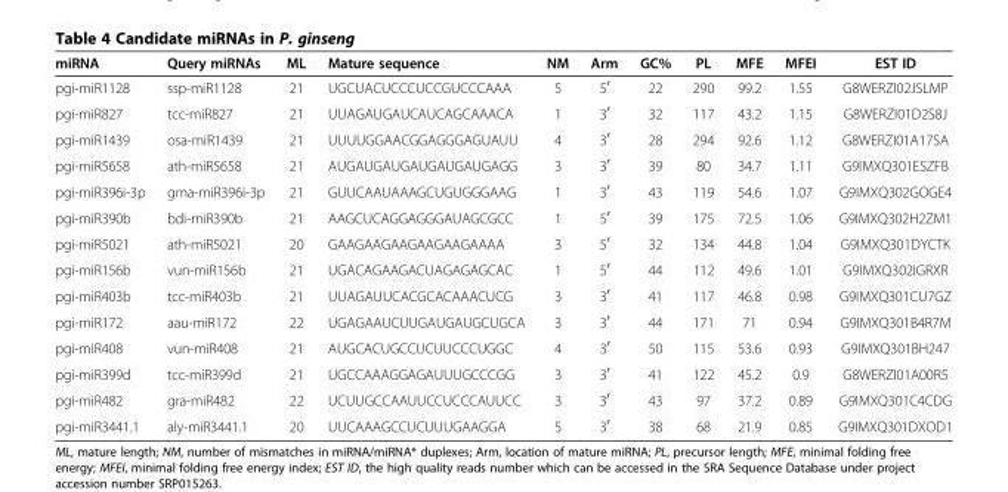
<table><thead><tr><td>miRNA</td><td>Query miRNAs</td><td>ML</td><td>Mature sequence</td><td>NM</td><td>Arm</td><td>GC%</td><td>PL</td><td>MFE</td><td>MFEI</td><td>EST ID</td></tr></thead><tbody><tr><td>pgi-miR1128</td><td>ssp-miR1128</td><td>21</td><td>UGCUACUCCCUCCGUCCCAAA</td><td>5</td><td>5<sup>′</sup></td><td>22</td><td>290</td><td>99.2</td><td>1.55</td><td>G8WERZI02JSLMP</td></tr><tr><td>pgi-miR827</td><td>tcc-miR827</td><td>21</td><td>UUAGAUGAUCAUCAGCAAACA</td><td>1</td><td>3<sup>′</sup></td><td>32</td><td>117</td><td>43.2</td><td>1.15</td><td>G8WERZI01D2S8J</td></tr><tr><td>pgi-miR1439</td><td>osa-miR1439</td><td>21</td><td>UUUUGGAACGGAGGGAGUAUU</td><td>4</td><td>3<sup>′</sup></td><td>28</td><td>294</td><td>92.6</td><td>1.12</td><td>G8WERZI01A17SA</td></tr><tr><td>pgi-miR5658</td><td>ath-miR5658</td><td>21</td><td>AUGAUGAUGAUGAUGAUGAGG</td><td>3</td><td>3<sup>′</sup></td><td>39</td><td>80</td><td>34.7</td><td>1.11</td><td>G9IMXQ301ESZFB</td></tr><tr><td>pgi-miR396i-3p</td><td>gma-miR396i-3p</td><td>21</td><td>GUUCAAUAAAGCUGUGGGAAG</td><td>1</td><td>3<sup>′</sup></td><td>43</td><td>119</td><td>54.6</td><td>1.07</td><td>G9IMXQ302GOGE4</td></tr><tr><td>pgi-miR390b</td><td>bdi-miR390b</td><td>21</td><td>AAGCUCAGGAGGGAUAGCGCC</td><td>1</td><td>5<sup>′</sup></td><td>39</td><td>175</td><td>72.5</td><td>1.06</td><td>G9IMXQ302H2ZM1</td></tr><tr><td>pgi-miR5021</td><td>ath-miR5021</td><td>20</td><td>GAAGAAGAAGAAGAAGAAAA</td><td>3</td><td>5<sup>′</sup></td><td>32</td><td>134</td><td>44.8</td><td>1.04</td><td>G9IMXQ301DYCTK</td></tr><tr><td>pgi-miR156b</td><td>vun-miR156b</td><td>21</td><td>UGACAGAAGACUAGAGAGCAC</td><td>1</td><td>5<sup>′</sup></td><td>44</td><td>112</td><td>49.6</td><td>1.01</td><td>G9IMXQ302IGRXR</td></tr><tr><td>pgi-miR403b</td><td>tcc-miR403b</td><td>21</td><td>UUAGAUUCACGCACAAACUCG</td><td>3</td><td>3<sup>′</sup></td><td>41</td><td>117</td><td>46.8</td><td>0.98</td><td>G9IMXQ301CU7GZ</td></tr><tr><td>pgi-miR172</td><td>aau-miR172</td><td>22</td><td>UGAGAAUCUUGAUGAUGCUGCA</td><td>3</td><td>3<sup>′</sup></td><td>44</td><td>171</td><td>71</td><td>0.94</td><td>G9IMXQ301B4R7M</td></tr><tr><td>pgi-miR408</td><td>vun-miR408</td><td>21</td><td>AUGCACUGCCUCUUCCCUGGC</td><td>4</td><td>3<sup>′</sup></td><td>50</td><td>115</td><td>53.6</td><td>0.93</td><td>G9IMXQ301BH247</td></tr><tr><td>pgi-miR399d</td><td>tcc-miR399d</td><td>21</td><td>UGCCAAAGGAGAUUUGCCCGG</td><td>3</td><td>3<sup>′</sup></td><td>41</td><td>122</td><td>45.2</td><td>0.9</td><td>G8WERZI01A00R5</td></tr><tr><td>pgi-miR482</td><td>gra-miR482</td><td>22</td><td>UCUUGCCAAUUCCUCCCAUUCC</td><td>3</td><td>3<sup>′</sup></td><td>43</td><td>97</td><td>37.2</td><td>0.89</td><td>G9IMXQ301C4CDG</td></tr><tr><td>pgi-miR3441.1</td><td>aly-miR3441.1</td><td>20</td><td>UUCAAAGCCUCUUUGAAGGA</td><td>5</td><td>3<sup>′</sup></td><td>38</td><td>68</td><td>21.9</td><td>0.85</td><td>G9IMXQ301DXOD1</td></tr></tbody></table>